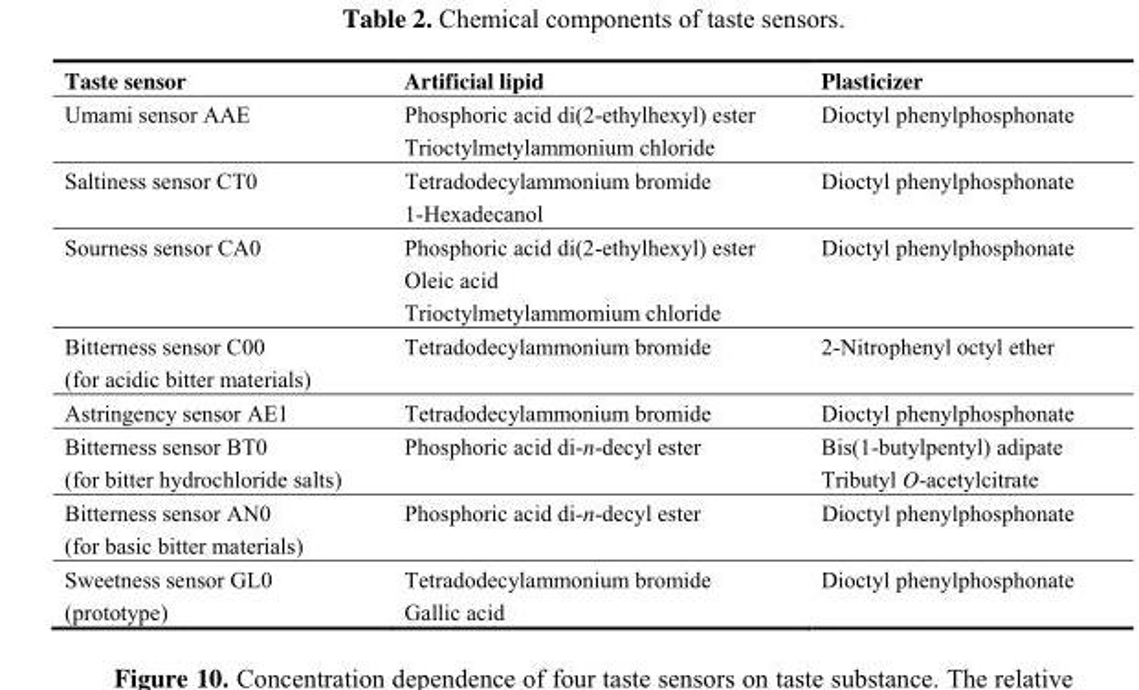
<table><thead><tr><td>Taste sensor</td><td>Artificial lipid</td><td>Plasticizer</td></tr></thead><tbody><tr><td>Umami sensor AAE</td><td>Phosphoric acid di(2-ethylhexyl) ester Trioctylmetylammonium chloride</td><td>Dioctyl phenylphosphonate</td></tr><tr><td>Saltiness sensor CT0</td><td>Tetradodecylammonium bromide 1-Hexadecanol</td><td>Dioctyl phenylphosphonate</td></tr><tr><td>Sourness sensor CA0</td><td>Phosphoric acid di(2-ethylhexyl) ester Oleic acid Trioctylmetylammomium chloride</td><td>Dioctyl phenylphosphonate</td></tr><tr><td>Bitterness sensor C00 (for acidic bitter materials)</td><td>Tetradodecylammonium bromide</td><td>2-Nitrophenyl octyl ether</td></tr><tr><td>Astringency sensor AE1</td><td>Tetradodecylammonium bromide</td><td>Dioctyl phenylphosphonate</td></tr><tr><td>Bitterness sensor BT0 (for bitter hydrochloride salts)</td><td>Phosphoric acid di-n-decyl ester</td><td>Bis(1-butylpentyl) adipate Tributyl O-acetylcitrate</td></tr><tr><td>Bitterness sensor AN0 (for basic bitter materials)</td><td>Phosphoric acid di-n-decyl ester</td><td>Dioctyl phenylphosphonate</td></tr><tr><td>Sweetness sensor GL0 (prototype)</td><td>Tetradodecylammonium bromide Gallic acid</td><td>Dioctyl phenylphosphonate</td></tr></tbody></table>